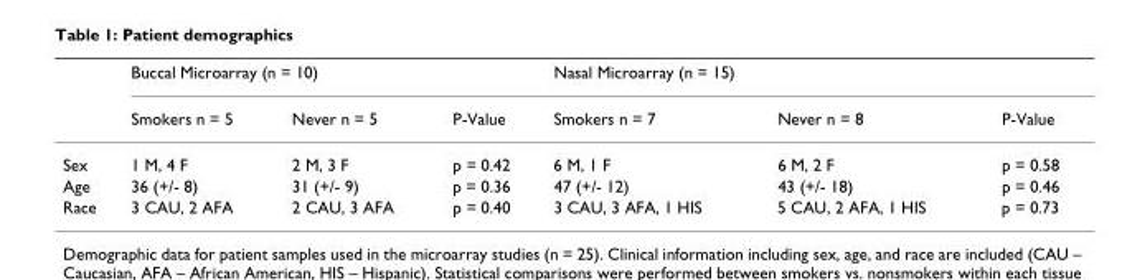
<table><thead><tr><td rowspan="2"></td><td colspan="3">Buccal Microarray (n = 10)</td><td colspan="3">Nasal Microarray (n = 15)</td></tr><tr><td>Smokers n = 5</td><td>Never n = 5</td><td>P-Value</td><td>Smokers n = 7</td><td>Never n = 8</td><td>P-Value</td></tr></thead><tbody><tr><td>Sex</td><td>1 M, 4 F</td><td>2 M, 3 F</td><td>p = 0.42</td><td>6 M, 1 F</td><td>6 M, 2 F</td><td>p = 0.58</td></tr><tr><td>Age</td><td>36 (+/- 8)</td><td>31 (+/- 9)</td><td>p = 0.36</td><td>47 (+/- 12)</td><td>43 (+/- 18)</td><td>p = 0.46</td></tr><tr><td>Race</td><td>3 CAU, 2 AFA</td><td>2 CAU, 3 AFA</td><td>p = 0.40</td><td>3 CAU, 3 AFA, 1 HIS</td><td>5 CAU, 2 AFA, 1 HIS</td><td>p = 0.73</td></tr></tbody></table>